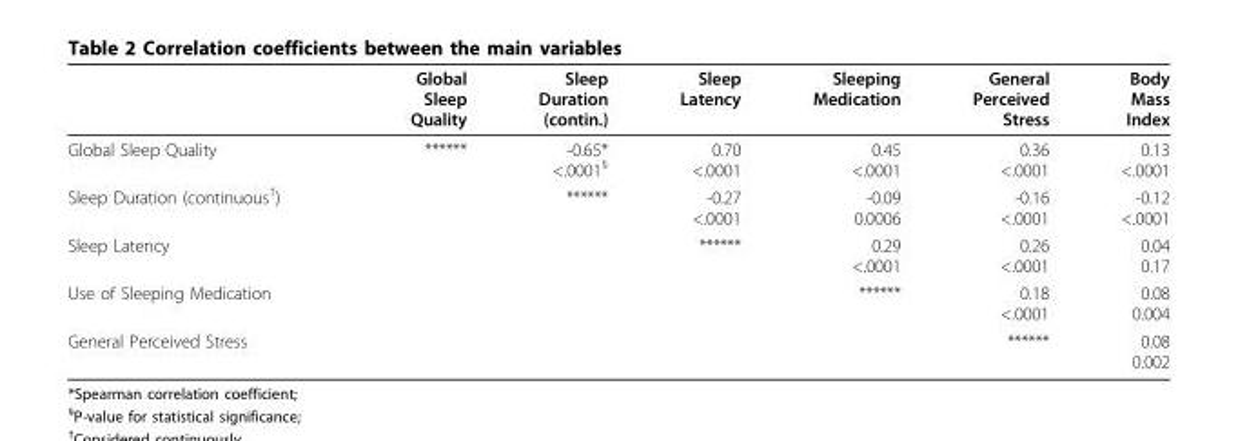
<table><thead><tr><td></td><td>Global Sleep Quality</td><td>Sleep Duration (contin.)</td><td>Sleep Latency</td><td>Sleeping Medication</td><td>General Perceived Stress</td><td>Body Mass Index</td></tr></thead><tbody><tr><td>Global Sleep Quality</td><td>******</td><td>-0.65* &lt;.0001<sup>§</sup></td><td>0.70 &lt;.0001</td><td>0.45 &lt;.0001</td><td>0.36 &lt;.0001</td><td>0.13 &lt;.0001</td></tr><tr><td>Sleep Duration (continuous<sup>†</sup>)</td><td></td><td>******</td><td>-0.27 &lt;.0001</td><td>-0.09 0.0006</td><td>-0.16 &lt;.0001</td><td>-0.12 &lt;.0001</td></tr><tr><td>Sleep Latency</td><td></td><td></td><td>******</td><td>0.29 &lt;.0001</td><td>0.26 &lt;.0001</td><td>0.04 0.17</td></tr><tr><td>Use of Sleeping Medication</td><td></td><td></td><td></td><td>******</td><td>0.18 &lt;.0001</td><td>0.08 0.004</td></tr><tr><td>General Perceived Stress</td><td></td><td></td><td></td><td></td><td>******</td><td>0.08 0.002</td></tr></tbody></table>